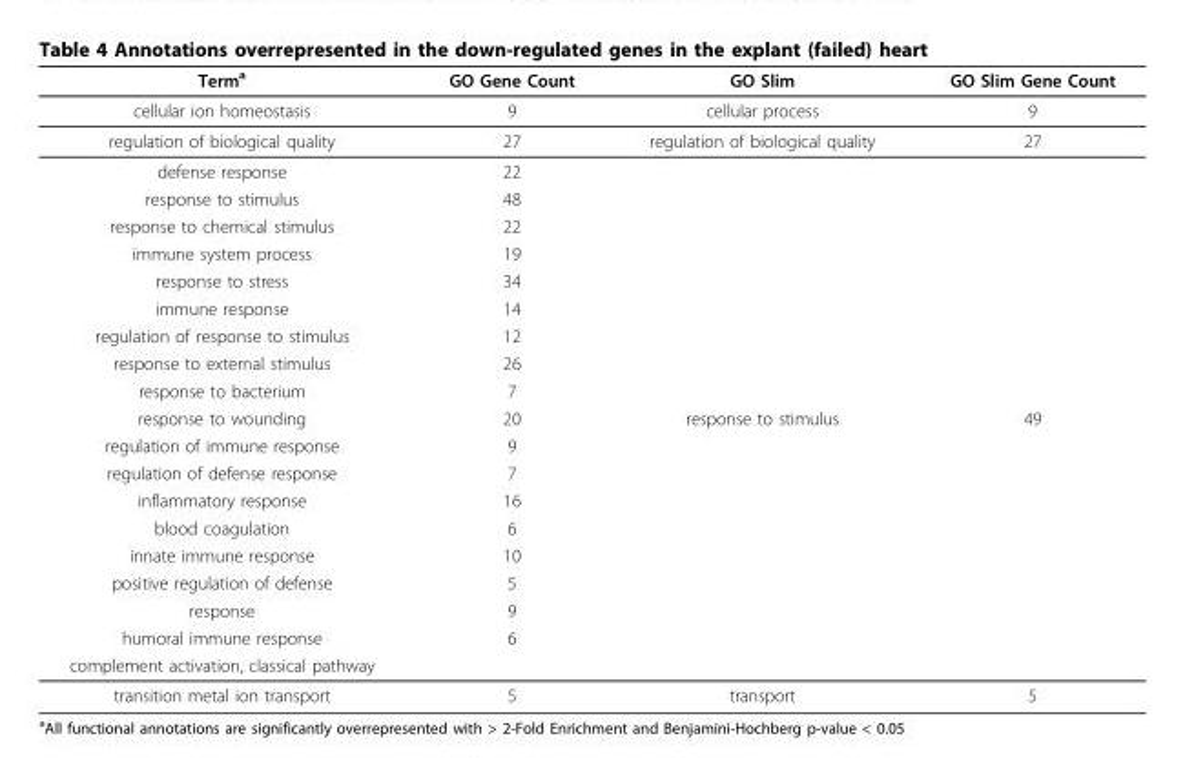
<table><thead><tr><td>Term<sup>a</sup></td><td>GO Gene Count</td><td>GO Slim</td><td>GO Slim Gene Count</td></tr></thead><tbody><tr><td>cellular ion homeostasis</td><td>9</td><td>cellular process</td><td>9</td></tr><tr><td>regulation of biological quality</td><td>27</td><td>regulation of biological quality</td><td>27</td></tr><tr><td>defense response</td><td>22</td><td></td><td></td></tr><tr><td>response to stimulus</td><td>48</td><td></td><td></td></tr><tr><td>response to chemical stimulus</td><td>22</td><td></td><td></td></tr><tr><td>immune system process</td><td>19</td><td></td><td></td></tr><tr><td>response to stress</td><td>34</td><td></td><td></td></tr><tr><td>immune response</td><td>14</td><td></td><td></td></tr><tr><td>regulation of response to stimulus</td><td>12</td><td></td><td></td></tr><tr><td>response to external stimulus</td><td>26</td><td></td><td></td></tr><tr><td>response to bacterium</td><td>7</td><td></td><td></td></tr><tr><td>response to wounding</td><td>20</td><td>response to stimulus</td><td>49</td></tr><tr><td>regulation of immune response</td><td>9</td><td></td><td></td></tr><tr><td>regulation of defense response</td><td>7</td><td></td><td></td></tr><tr><td>inflammatory response</td><td>16</td><td></td><td></td></tr><tr><td>blood coagulation</td><td>6</td><td></td><td></td></tr><tr><td>innate immune response</td><td>10</td><td></td><td></td></tr><tr><td>positive regulation of defense</td><td>5</td><td></td><td></td></tr><tr><td>response</td><td>9</td><td></td><td></td></tr><tr><td>humoral immune response</td><td>6</td><td></td><td></td></tr><tr><td colspan="4">complement activation, classical pathway</td></tr><tr><td>transition metal ion transport</td><td>5</td><td>transport</td><td>5</td></tr></tbody></table>